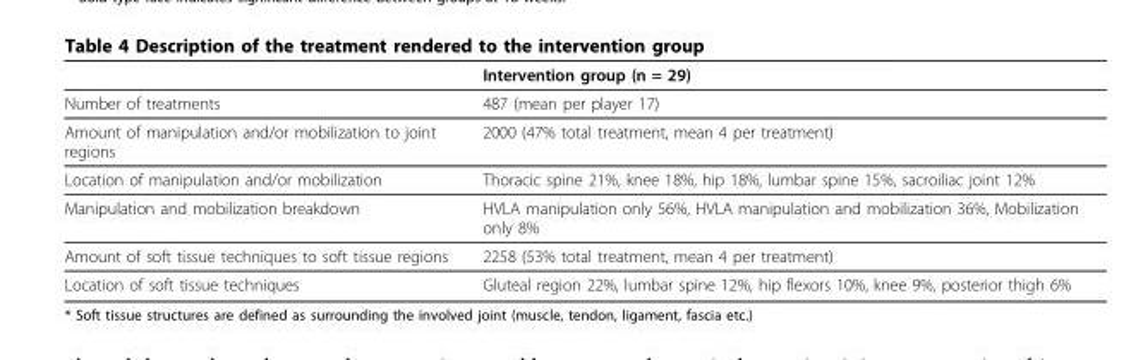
<table><thead><tr><td></td><td>Intervention group (n = 29)</td></tr></thead><tbody><tr><td>Number of treatments</td><td>487 (mean per player 17)</td></tr><tr><td>Amount of manipulation and/or mobilization to joint regions</td><td>2000 (47% total treatment, mean 4 per treatment)</td></tr><tr><td>Location of manipulation and/or mobilization</td><td>Thoracic spine 21%, knee 18%, hip 18%, lumbar spine 15%, sacroiliac joint 12%</td></tr><tr><td>Manipulation and mobilization breakdown</td><td>HVLA manipulation only 56%, HVLA manipulation and mobilization 36%, Mobilization only 8%</td></tr><tr><td>Amount of soft tissue techniques to soft tissue regions</td><td>2258 (53% total treatment, mean 4 per treatment)</td></tr><tr><td>Location of soft tissue techniques</td><td>Gluteal region 22%, lumbar spine 12%, hip flexors 10%, knee 9%, posterior thigh 6%</td></tr></tbody></table>